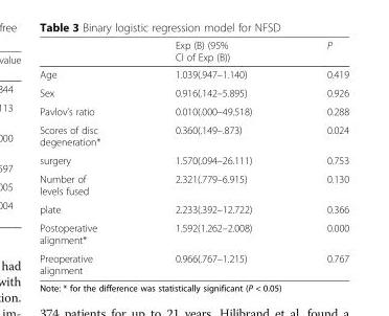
<table><thead><tr><td></td><td>Exp (B) (95% CI of Exp (B))</td><td>P</td></tr></thead><tbody><tr><td>Age</td><td>1.039(.947–1.140)</td><td>0.419</td></tr><tr><td>Sex</td><td>0.916(.142–5.895)</td><td>0.926</td></tr><tr><td>Pavlov’s ratio</td><td>0.010(.000–49.518)</td><td>0.288</td></tr><tr><td>Scores of disc degeneration*</td><td>0.360(.149–.873)</td><td>0.024</td></tr><tr><td>surgery</td><td>1.570(.094–26.111)</td><td>0.753</td></tr><tr><td>Number of levels fused</td><td>2.321(.779–6.915)</td><td>0.130</td></tr><tr><td>plate</td><td>2.233(.392–12.722)</td><td>0.366</td></tr><tr><td>Postoperative alignment*</td><td>1.592(1.262–2.008)</td><td>0.000</td></tr><tr><td>Preoperative alignment</td><td>0.966(.767–1.215)</td><td>0.767</td></tr></tbody></table>